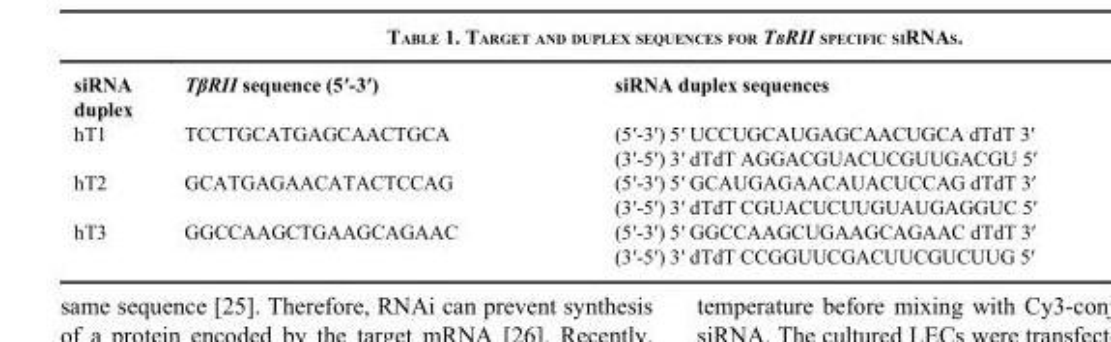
<table><thead><tr><td>siRNA duplex</td><td>TβRII sequence (5′-3′)</td><td>siRNA duplex sequences</td></tr></thead><tbody><tr><td rowspan="2">hT1</td><td>TCCTGCATGAGCAACTGCA</td><td>(5′-3′) 5′ UCCUGCAUGAGCAACUGCA dTdT 3′</td></tr><tr><td></td><td>(3′-5′) 3′ dTdT AGGACGUACUCGUUGACGU 5′</td></tr><tr><td rowspan="2">hT2</td><td>GCATGAGAACATACTCCAG</td><td>(5′-3′) 5′ GCAUGAGAACAUACUCCAG dTdT 3′</td></tr><tr><td></td><td>(3′-5′) 3′ dTdT CGUACUCUUGUAUGAGGUC 5′</td></tr><tr><td rowspan="2">hT3</td><td>GGCCAAGCTGAAGCAGAAC</td><td>(5′-3′) 5′ GGCCAAGCUGAAGCAGAAC dTdT 3′</td></tr><tr><td></td><td>(3′-5′) 3′ dTdT CCGGUUCGACUUCGUCUUG 5′</td></tr></tbody></table>